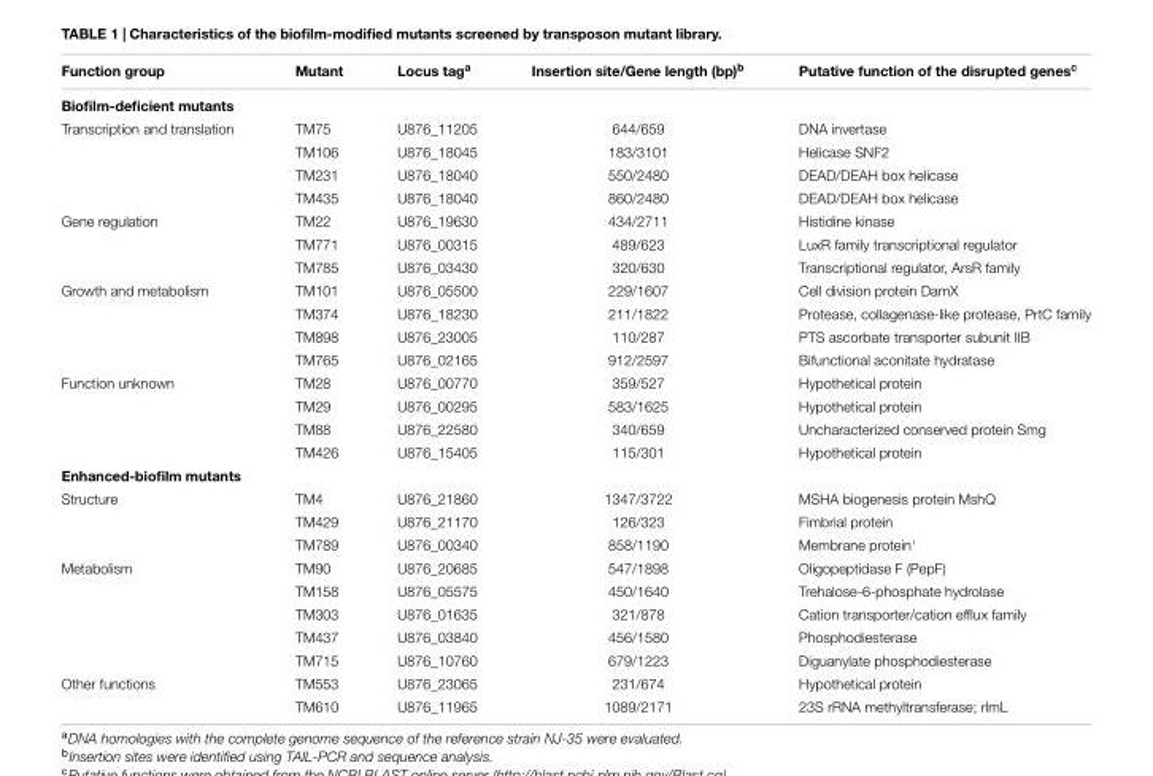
<table><thead><tr><td>Function group</td><td>Mutant</td><td>Locus tag<sup>a</sup></td><td>Insertion site/Gene length (bp)<sup>b</sup></td><td>Putative function of the disrupted genes<sup>c</sup></td></tr></thead><tbody><tr><td colspan="5">Biofilm-deficient mutants</td></tr><tr><td rowspan="4">Transcription and translation</td><td>TM75</td><td>U876_11205</td><td>644/659</td><td>DNA invertase</td></tr><tr><td>TM106</td><td>U876_18045</td><td>183/3101</td><td>Helicase SNF2</td></tr><tr><td>TM231</td><td>U876_18040</td><td>550/2480</td><td>DEAD/DEAH box helicase</td></tr><tr><td>TM435</td><td>U876_18040</td><td>860/2480</td><td>DEAD/DEAH box helicase</td></tr><tr><td rowspan="3">Gene regulation</td><td>TM22</td><td>U876_19630</td><td>434/2711</td><td>Histidine kinase</td></tr><tr><td>TM771</td><td>U876_00315</td><td>489/623</td><td>LuxR family transcriptional regulator</td></tr><tr><td>TM785</td><td>U876_03430</td><td>320/630</td><td>Transcriptional regulator, ArsR family</td></tr><tr><td rowspan="4">Growth and metabolism</td><td>TM101</td><td>U876_05500</td><td>229/1607</td><td>Cell division protein DamX</td></tr><tr><td>TM374</td><td>U876_18230</td><td>211/1822</td><td>Protease, collagenase-like protease, PrtC family</td></tr><tr><td>TM898</td><td>U876_23005</td><td>110/287</td><td>PTS ascorbate transporter subunit IIB</td></tr><tr><td>TM765</td><td>U876_02165</td><td>912/2597</td><td>Bifunctional aconitate hydratase</td></tr><tr><td rowspan="4">Function unknown</td><td>TM28</td><td>U876_00770</td><td>359/527</td><td>Hypothetical protein</td></tr><tr><td>TM29</td><td>U876_00295</td><td>583/1625</td><td>Hypothetical protein</td></tr><tr><td>TM88</td><td>U876_22580</td><td>340/659</td><td>Uncharacterized conserved protein Smg</td></tr><tr><td>TM426</td><td>U876_15405</td><td>115/301</td><td>Hypothetical protein</td></tr><tr><td colspan="5">Enhanced-biofilm mutants</td></tr><tr><td rowspan="3">Structure</td><td>TM4</td><td>U876_21860</td><td>1347/3722</td><td>MSHA biogenesis protein MshQ</td></tr><tr><td>TM429</td><td>U876_21170</td><td>126/323</td><td>Fimbrial protein</td></tr><tr><td>TM789</td><td>U876_00340</td><td>858/1190</td><td>Membrane protein‘</td></tr><tr><td rowspan="5">Metabolism</td><td>TM90</td><td>U876_20685</td><td>547/1898</td><td>Oligopeptidase F (PepF)</td></tr><tr><td>TM158</td><td>U876_05575</td><td>450/1640</td><td>Trehalose-6-phosphate hydrolase</td></tr><tr><td>TM303</td><td>U876_01635</td><td>321/878</td><td>Cation transporter/cation efflux family</td></tr><tr><td>TM437</td><td>U876_03840</td><td>456/1580</td><td>Phosphodiesterase</td></tr><tr><td>TM715</td><td>U876_10760</td><td>679/1223</td><td>Diguanylate phosphodiesterase</td></tr><tr><td rowspan="2">Other functions</td><td>TM553</td><td>U876_23065</td><td>231/674</td><td>Hypothetical protein</td></tr><tr><td>TM610</td><td>U876_11965</td><td>1089/2171</td><td>23S rRNA methyltransferase; rlmL</td></tr></tbody></table>